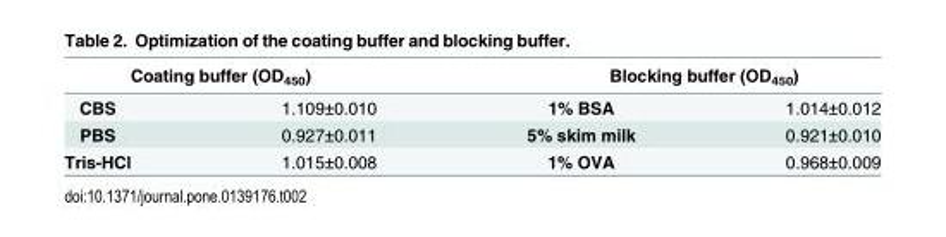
<table><thead><tr><td colspan="2">Coating buffer (OD<sub>450</sub>)</td><td colspan="2">Blocking buffer (OD<sub>450</sub>)</td></tr><tr><td>CBS</td><td>1.109±0.010</td><td>1% BSA</td><td>1.014±0.012</td></tr></thead><tbody><tr><td>PBS</td><td>0.927±0.011</td><td>5% skim milk</td><td>0.921±0.010</td></tr><tr><td>Tris-HCl</td><td>1.015±0.008</td><td>1% OVA</td><td>0.968±0.009</td></tr></tbody></table>